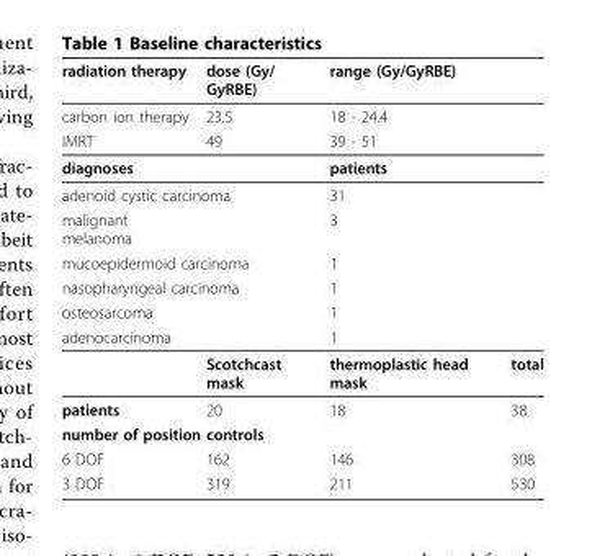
<table><thead><tr><td>radiation therapy</td><td>dose (Gy/ GyRBE)</td><td>range (Gy/GyRBE)</td><td></td></tr></thead><tbody><tr><td>carbon ion therapy</td><td>23.5</td><td>18 - 24.4</td><td></td></tr><tr><td>IMRT</td><td>49</td><td>39 - 51</td><td></td></tr><tr><td>diagnoses</td><td></td><td>patients</td><td></td></tr><tr><td colspan="2">adenoid cystic carcinoma</td><td>31</td><td></td></tr><tr><td>malignant melanoma</td><td></td><td>3</td><td></td></tr><tr><td colspan="2">mucoepidermoid carcinoma</td><td>1</td><td></td></tr><tr><td colspan="2">nasopharyngeal carcinoma</td><td>1</td><td></td></tr><tr><td>osteosarcoma</td><td></td><td>1</td><td></td></tr><tr><td rowspan="2">adenocarcinoma</td><td></td><td>1</td><td></td></tr><tr><td>Scotchcast mask</td><td>thermoplastic head mask</td><td>total</td></tr><tr><td>patients</td><td>20</td><td>18</td><td>38</td></tr><tr><td colspan="4">number of position controls</td></tr><tr><td>6 DOF</td><td>162</td><td>146</td><td>308</td></tr><tr><td>3 DOF</td><td>319</td><td>211</td><td>530</td></tr></tbody></table>